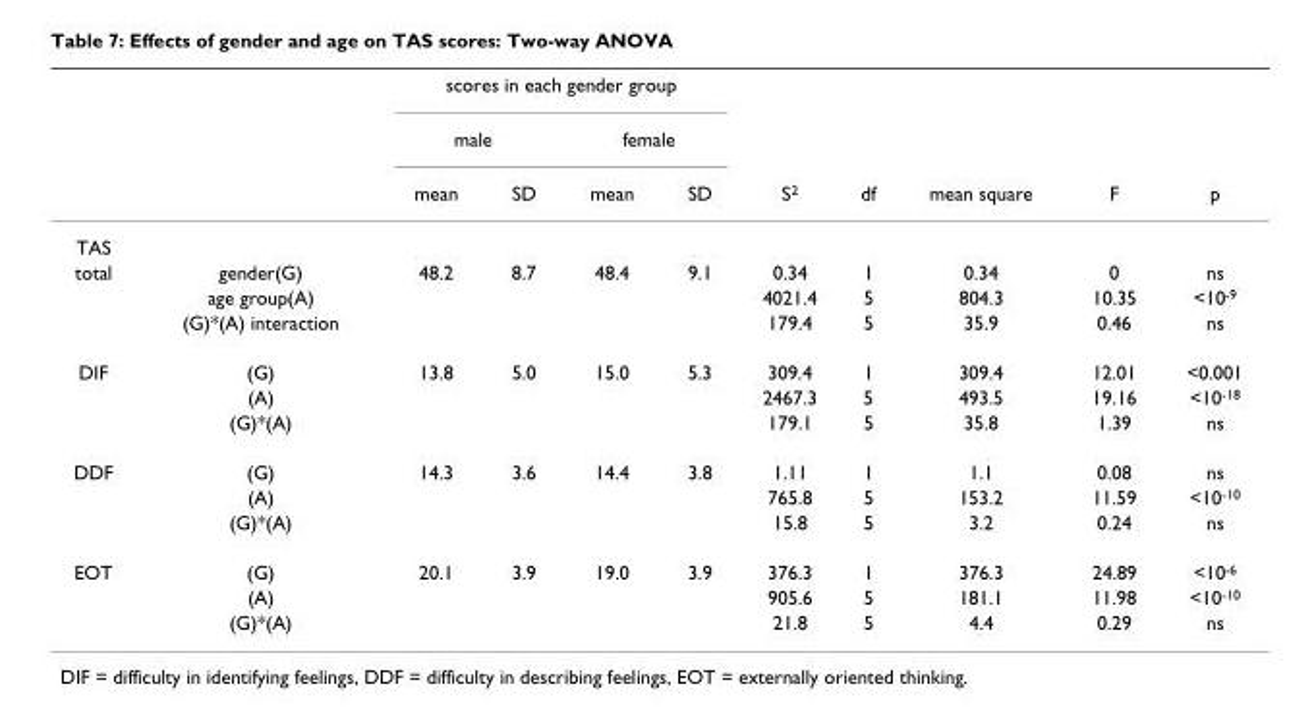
<table><thead><tr><td rowspan="3"></td><td rowspan="3"></td><td colspan="4">scores in each gender group</td><td rowspan="3">S<sup>2</sup></td><td rowspan="3">df</td><td rowspan="3">mean square</td><td rowspan="3">F</td><td rowspan="3">p</td></tr><tr><td colspan="2">male</td><td colspan="2">female</td></tr><tr><td>mean</td><td>SD</td><td>mean</td><td>SD</td></tr></thead><tbody><tr><td colspan="11">TAS</td></tr><tr><td rowspan="3">total</td><td>gender(G)</td><td>48.2</td><td>8.7</td><td>48.4</td><td>9.1</td><td>0.34</td><td>1</td><td>0.34</td><td>0</td><td>ns</td></tr><tr><td>age group(A)</td><td></td><td></td><td></td><td></td><td>4021.4</td><td>5</td><td>804.3</td><td>10.35</td><td>&lt;10<sup>-9</sup></td></tr><tr><td>(G)*(A) interaction</td><td></td><td></td><td></td><td></td><td>179.4</td><td>5</td><td>35.9</td><td>0.46</td><td>ns</td></tr><tr><td rowspan="3">DIF</td><td>(G)</td><td>13.8</td><td>5.0</td><td>15.0</td><td>5.3</td><td>309.4</td><td>1</td><td>309.4</td><td>12.01</td><td>&lt;0.001</td></tr><tr><td>(A)</td><td></td><td></td><td></td><td></td><td>2467.3</td><td>5</td><td>493.5</td><td>19.16</td><td>&lt;10<sup>-18</sup></td></tr><tr><td>(G)*(A)</td><td></td><td></td><td></td><td></td><td>179.1</td><td>5</td><td>35.8</td><td>1.39</td><td>ns</td></tr><tr><td rowspan="3">DDF</td><td>(G)</td><td>14.3</td><td>3.6</td><td>14.4</td><td>3.8</td><td>1.11</td><td>1</td><td>1.1</td><td>0.08</td><td>ns</td></tr><tr><td>(A)</td><td></td><td></td><td></td><td></td><td>765.8</td><td>5</td><td>153.2</td><td>11.59</td><td>&lt;10<sup>-10</sup></td></tr><tr><td>(G)*(A)</td><td></td><td></td><td></td><td></td><td>15.8</td><td>5</td><td>3.2</td><td>0.24</td><td>ns</td></tr><tr><td rowspan="3">EOT</td><td>(G)</td><td>20.1</td><td>3.9</td><td>19.0</td><td>3.9</td><td>376.3</td><td>1</td><td>376.3</td><td>24.89</td><td>&lt;10<sup>-6</sup></td></tr><tr><td>(A)</td><td></td><td></td><td></td><td></td><td>905.6</td><td>5</td><td>181.1</td><td>11.98</td><td>&lt;10<sup>-10</sup></td></tr><tr><td>(G)*(A)</td><td></td><td></td><td></td><td></td><td>21.8</td><td>5</td><td>4.4</td><td>0.29</td><td>ns</td></tr></tbody></table>